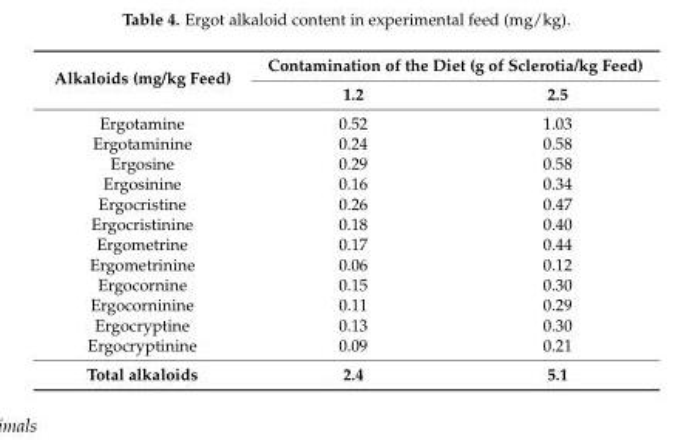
<table><thead><tr><td rowspan="2">Alkaloids (mg/kg Feed)</td><td colspan="2">Contamination of the Diet (g of Sclerotia/kg Feed)</td></tr><tr><td>1.2</td><td>2.5</td></tr></thead><tbody><tr><td>Ergotamine</td><td>0.52</td><td>1.03</td></tr><tr><td>Ergotaminine</td><td>0.24</td><td>0.58</td></tr><tr><td>Ergosine</td><td>0.29</td><td>0.58</td></tr><tr><td>Ergosinine</td><td>0.16</td><td>0.34</td></tr><tr><td>Ergocristine</td><td>0.26</td><td>0.47</td></tr><tr><td>Ergocristinine</td><td>0.18</td><td>0.40</td></tr><tr><td>Ergometrine</td><td>0.17</td><td>0.44</td></tr><tr><td>Ergometrinine</td><td>0.06</td><td>0.12</td></tr><tr><td>Ergocornine</td><td>0.15</td><td>0.30</td></tr><tr><td>Ergocorninine</td><td>0.11</td><td>0.29</td></tr><tr><td>Ergocryptine</td><td>0.13</td><td>0.30</td></tr><tr><td>Ergocryptinine</td><td>0.09</td><td>0.21</td></tr><tr><td>Total alkaloids</td><td>2.4</td><td>5.1</td></tr></tbody></table>